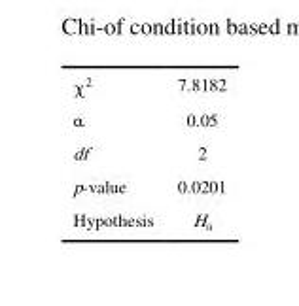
<table><tbody><tr><td>χ<sup>2</sup></td><td>7.8182</td></tr><tr><td>α</td><td>0.05</td></tr><tr><td>df</td><td>2</td></tr><tr><td>p-value</td><td>0.0201</td></tr><tr><td>Hypothesis</td><td>H<sub>a</sub></td></tr></tbody></table>